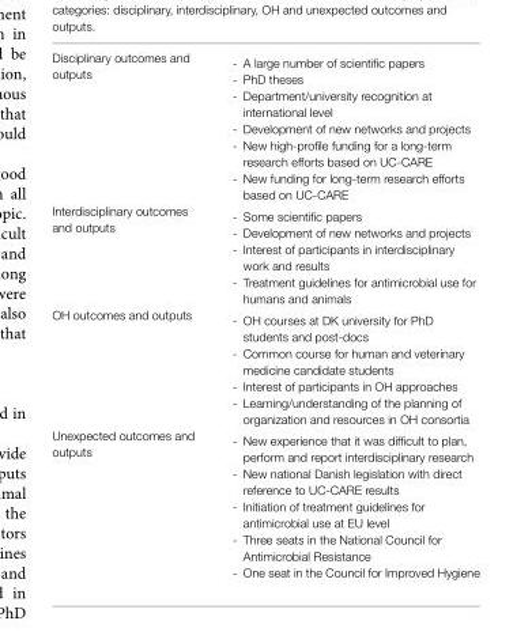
<table><tbody><tr><td>Disciplinary outcomes and outputs</td><td>- A large number of scientific papers - PhD theses - Department/university recognition at international level - Development of new networks and projects - New high-profile funding for a long-term research efforts based on UC-CARE - New funding for long-term research efforts based on UC-CARE</td></tr><tr><td>Interdisciplinary outcomes and outputs</td><td>- Some scientific papers - Development of new networks and projects - Interest of participants in interdisciplinary work and results - Treatment guidelines for antimicrobial use for humans and animals</td></tr><tr><td>OH outcomes and outputs</td><td>- OH courses at DK university for PhD students and post-docs - Common course for human and veterinary medicine candidate students - Interest of participants in OH approaches - Learning/understanding of the planning of organization and resources in OH consortia</td></tr><tr><td>Unexpected outcomes and outputs</td><td>- New experience that it was difficult to plan, perform and report interdisciplinary research - New national Danish legislation with direct reference to UC-CARE results - Initiation of treatment guidelines for antimicrobial use at EU level - Three seats in the National Council for Antimicrobial Resistance - One seat in the Council for Improved Hygiene</td></tr></tbody></table>